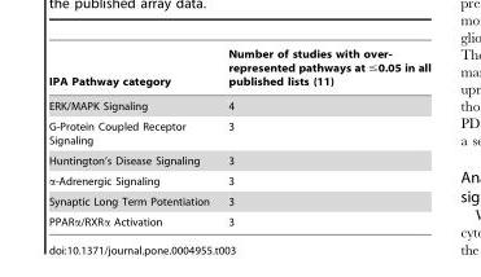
<table><thead><tr><td>IPA Pathway category</td><td>Number of studies with over- represented pathways at ≤0.05 in all published lists (11)</td></tr></thead><tbody><tr><td>ERK/MAPK Signaling</td><td>4</td></tr><tr><td>G-Protein Coupled Receptor Signaling</td><td>3</td></tr><tr><td>Huntington’s Disease Signaling</td><td>3</td></tr><tr><td>α-Adrenergic Signaling</td><td>3</td></tr><tr><td>Synaptic Long Term Potentiation</td><td>3</td></tr><tr><td>PPARα/RXRα Activation</td><td>3</td></tr></tbody></table>